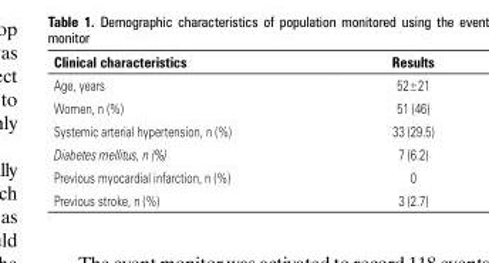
<table><thead><tr><td>Clinical characteristics</td><td>Results</td></tr></thead><tbody><tr><td>Age, years</td><td>52±21</td></tr><tr><td>Women, n (%)</td><td>51 (46)</td></tr><tr><td>Systemic arterial hypertension, n (%)</td><td>33 (29.5)</td></tr><tr><td>Diabetes mellitus, n (%)</td><td>7 (6.2)</td></tr><tr><td>Previous myocardial infarction, n (%)</td><td>0</td></tr><tr><td>Previous stroke, n (%)</td><td>3 (2.7)</td></tr></tbody></table>